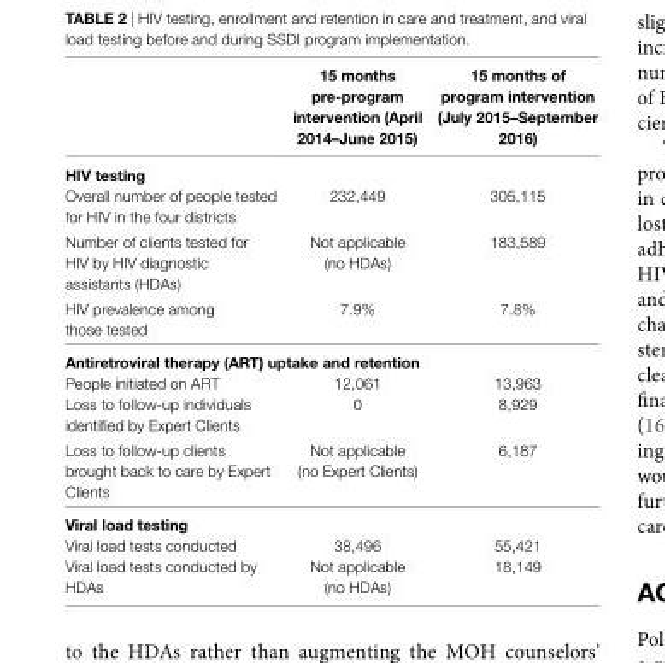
<table><thead><tr><td></td><td>15 months pre-program intervention (April 2014–June 2015)</td><td>15 months of program intervention (July 2015–September 2016)</td></tr></thead><tbody><tr><td colspan="3">HiV testing</td></tr><tr><td>Overall number of people tested for HIV in the four districts</td><td>232,449</td><td>305,115</td></tr><tr><td>Number of clients tested for HIV by HIV diagnostic assistants (HDAs)</td><td>Not applicable (no HDAs)</td><td>183,589</td></tr><tr><td>HIV prevalence among those tested</td><td>7.9%</td><td>7.8%</td></tr><tr><td colspan="3">Antiretroviral therapy (ArT) uptake and retention</td></tr><tr><td>People initiated on ART</td><td>12,061</td><td>13,963</td></tr><tr><td>Loss to follow-up individuals identified by Expert Clients</td><td>0</td><td>8,929</td></tr><tr><td>Loss to follow-up clients brought back to care by Expert Clients</td><td>Not applicable (no Expert Clients)</td><td>6,187</td></tr><tr><td colspan="3">Viral load testing</td></tr><tr><td>Viral load tests conducted</td><td>38,496</td><td>55,421</td></tr><tr><td>Viral load tests conducted by HDAs</td><td>Not applicable (no HDAs)</td><td>18,149</td></tr></tbody></table>